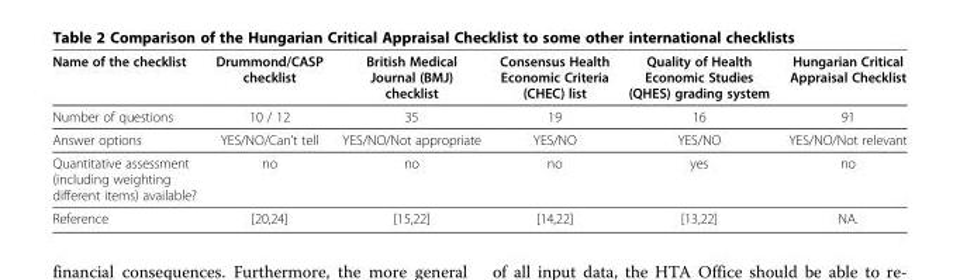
<table><thead><tr><td>Name of the checklist</td><td>Drummond/CASP checklist</td><td>British Medical Journal (BMJ) checklist</td><td>Consensus Health Economic Criteria (CHEC) list</td><td>Quality of Health Economic Studies (QHES) grading system</td><td>Hungarian Critical Appraisal Checklist</td></tr></thead><tbody><tr><td>Number of questions</td><td>10 / 12</td><td>35</td><td>19</td><td>16</td><td>91</td></tr><tr><td>Answer options</td><td>YES/NO/Can&#x27;t tell</td><td>YES/NO/Not appropriate</td><td>YES/NO</td><td>YES/NO</td><td>YES/NO/Not relevant</td></tr><tr><td>Quantitative assessment (including weighting different items) available?</td><td>no</td><td>no</td><td>no</td><td>yes</td><td>no</td></tr><tr><td>Reference</td><td>[20,24]</td><td>[15,22]</td><td>[14,22]</td><td>[13,22]</td><td>NA.</td></tr></tbody></table>